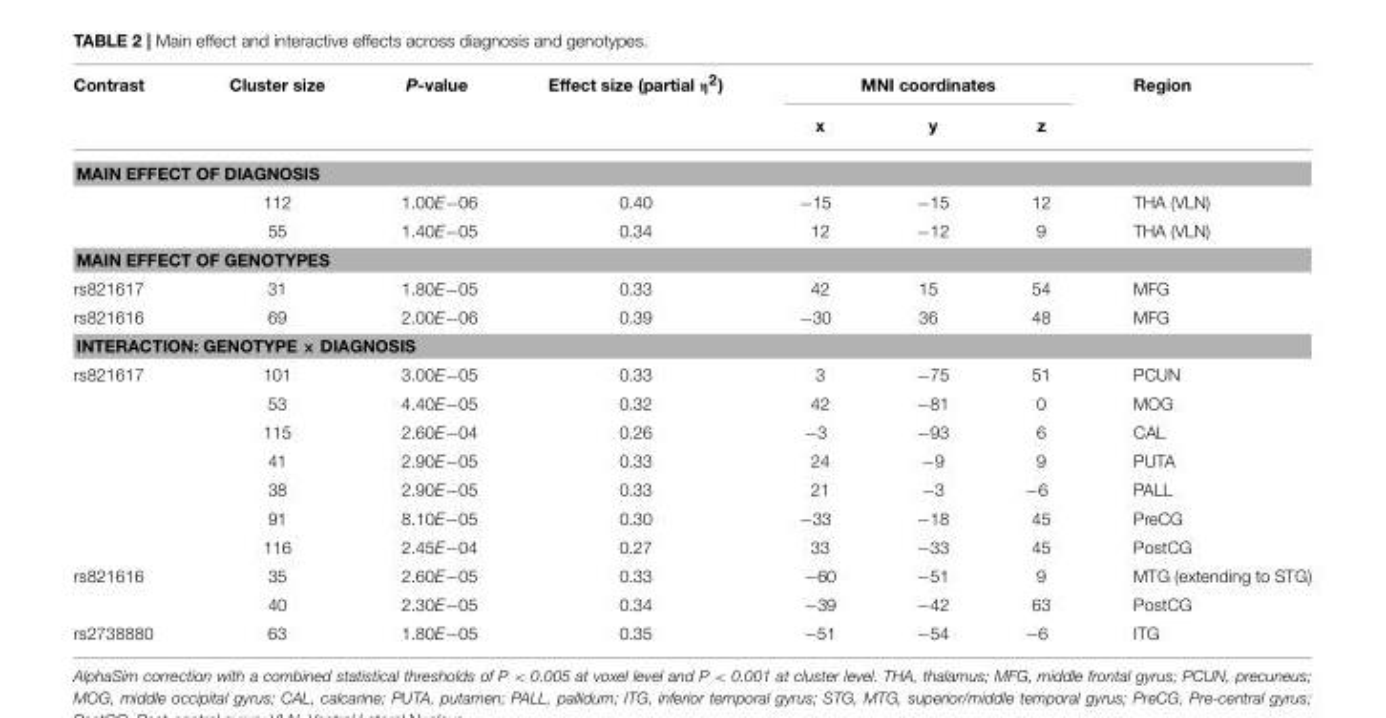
<table><thead><tr><td rowspan="2">Contrast</td><td rowspan="2">Cluster size</td><td rowspan="2">P-value</td><td rowspan="2">Effect size (partial η<sup>2</sup>)</td><td colspan="3">MNI coordinates</td><td rowspan="2">Region</td></tr><tr><td>x</td><td>y</td><td>z</td></tr></thead><tbody><tr><td colspan="8">MAIN EFFECT OF DIAGNOSIS</td></tr><tr><td></td><td>112</td><td>1.00E−06</td><td>0.40</td><td>−15</td><td>−15</td><td>12</td><td>THA (VLN)</td></tr><tr><td></td><td>55</td><td>1.40E−05</td><td>0.34</td><td>12</td><td>−12</td><td>9</td><td>THA (VLN)</td></tr><tr><td colspan="8">MAIN EFFECT OF GENOTYPES</td></tr><tr><td>rs821617</td><td>31</td><td>1.80E−05</td><td>0.33</td><td>42</td><td>15</td><td>54</td><td>MFG</td></tr><tr><td>rs821616</td><td>69</td><td>2.00E−06</td><td>0.39</td><td>−30</td><td>36</td><td>48</td><td>MFG</td></tr><tr><td colspan="8">INTERACTION: GENOTYPE × DIAGNOSIS</td></tr><tr><td rowspan="7">rs821617</td><td>101</td><td>3.00E−05</td><td>0.33</td><td>3</td><td>−75</td><td>51</td><td>PCUN</td></tr><tr><td>53</td><td>4.40E−05</td><td>0.32</td><td>42</td><td>−81</td><td>0</td><td>MOG</td></tr><tr><td>115</td><td>2.60E−04</td><td>0.26</td><td>−3</td><td>−93</td><td>6</td><td>CAL</td></tr><tr><td>41</td><td>2.90E−05</td><td>0.33</td><td>24</td><td>−9</td><td>9</td><td>PUTA</td></tr><tr><td>38</td><td>2.90E−05</td><td>0.33</td><td>21</td><td>−3</td><td>−6</td><td>PALL</td></tr><tr><td>91</td><td>8.10E−05</td><td>0.30</td><td>−33</td><td>−18</td><td>45</td><td>PreCG</td></tr><tr><td>116</td><td>2.45E−04</td><td>0.27</td><td>33</td><td>−33</td><td>45</td><td>PostCG</td></tr><tr><td rowspan="2">rs821616</td><td>35</td><td>2.60E−05</td><td>0.33</td><td>−60</td><td>−51</td><td>9</td><td>MTG (extending to STG)</td></tr><tr><td>40</td><td>2.30E−05</td><td>0.34</td><td>−39</td><td>−42</td><td>63</td><td>PostCG</td></tr><tr><td>rs2738880</td><td>63</td><td>1.80E−05</td><td>0.35</td><td>−51</td><td>−54</td><td>−6</td><td>ITG</td></tr></tbody></table>